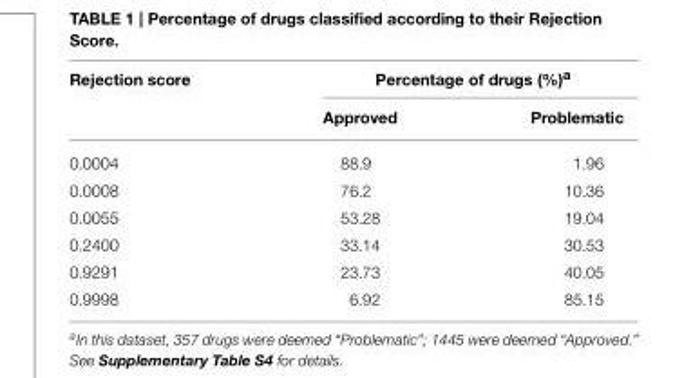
<table><thead><tr><td rowspan="2">Rejection score</td><td colspan="2">Percentage of drugs (%)<sup>a</sup></td></tr><tr><td>Approved</td><td>Problematic</td></tr></thead><tbody><tr><td>0.0004</td><td>88.9</td><td>1.96</td></tr><tr><td>0.0008</td><td>76.2</td><td>10.36</td></tr><tr><td>0.0055</td><td>53.28</td><td>19.04</td></tr><tr><td>0.2400</td><td>33.14</td><td>30.53</td></tr><tr><td>0.9291</td><td>23.73</td><td>40.05</td></tr><tr><td>0.9998</td><td>6.92</td><td>85.15</td></tr></tbody></table>